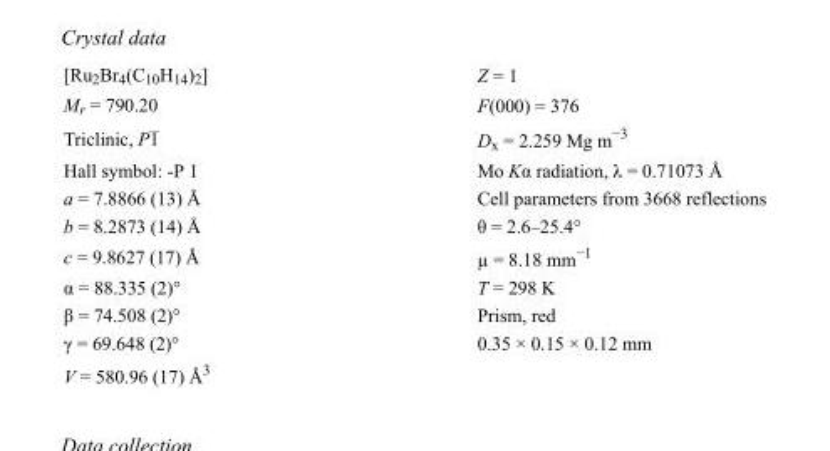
<table><tbody><tr><td>[Ru<sub>2</sub>Br<sub>4</sub>(C<sub>10</sub>H<sub>14</sub>)<sub>2</sub>]</td><td>Z = 1</td></tr><tr><td>M<sub>r</sub> = 790.20</td><td>F(000) = 376</td></tr><tr><td>Triclinic, P1</td><td>D<sub>x</sub> = 2.259 Mg m<sup>−3</sup></td></tr><tr><td>Hall symbol: -P 1</td><td>Mo Kα radiation, λ = 0.71073 Å</td></tr><tr><td>a = 7.8866 (13) Å</td><td>Cell parameters from 3668 reflections</td></tr><tr><td>b = 8.2873 (14) Å</td><td>θ = 2.6–25.4°</td></tr><tr><td>c = 9.8627 (17) Å</td><td>µ = 8.18 mm<sup>−1</sup></td></tr><tr><td>α = 88.335 (2)°</td><td>T = 298 K</td></tr><tr><td>β = 74.508 (2)°</td><td>Prism, red</td></tr><tr><td>γ = 69.648 (2)°</td><td>0.35 × 0.15 × 0.12 mm</td></tr><tr><td>V = 580.96 (17) Å<sup>3</sup></td><td></td></tr></tbody></table>